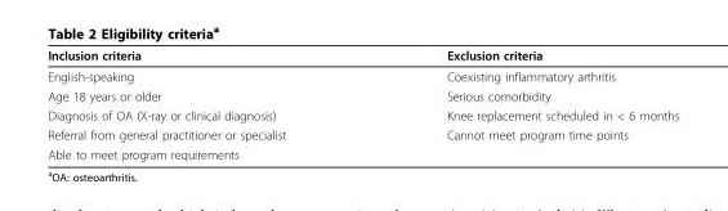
<table><thead><tr><td>Inclusion criteria</td><td>Exclusion criteria</td></tr></thead><tbody><tr><td>English-speaking</td><td>Coexisting inflammatory arthritis</td></tr><tr><td>Age 18 years or older</td><td>Serious comorbidity</td></tr><tr><td>Diagnosis of OA (X-ray or clinical diagnosis)</td><td>Knee replacement scheduled in &lt; 6 months</td></tr><tr><td>Referral from general practitioner or specialist</td><td>Cannot meet program time points</td></tr><tr><td>Able to meet program requirements</td><td></td></tr></tbody></table>